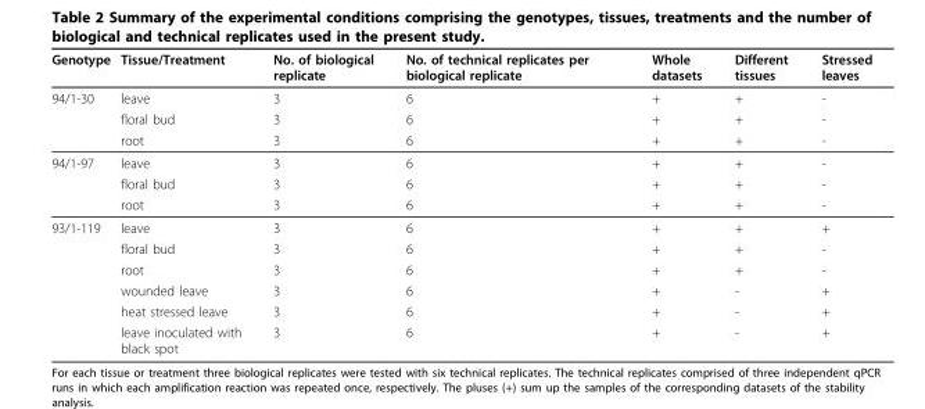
<table><thead><tr><td>Genotype</td><td>Tissue/Treatment</td><td>No. of biological replicate</td><td>No. of technical replicates per biological replicate</td><td>Whole datasets</td><td>Different tissues</td><td>Stressed leaves</td></tr></thead><tbody><tr><td rowspan="3">94/1-30</td><td>leave</td><td>3</td><td>6</td><td>+</td><td>+</td><td>-</td></tr><tr><td>floral bud</td><td>3</td><td>6</td><td>+</td><td>+</td><td>-</td></tr><tr><td>root</td><td>3</td><td>6</td><td>+</td><td>+</td><td>-</td></tr><tr><td rowspan="3">94/1-97</td><td>leave</td><td>3</td><td>6</td><td>+</td><td>+</td><td>-</td></tr><tr><td>floral bud</td><td>3</td><td>6</td><td>+</td><td>+</td><td>-</td></tr><tr><td>root</td><td>3</td><td>6</td><td>+</td><td>+</td><td>-</td></tr><tr><td rowspan="6">93/1-119</td><td>leave</td><td>3</td><td>6</td><td>+</td><td>+</td><td>+</td></tr><tr><td>floral bud</td><td>3</td><td>6</td><td>+</td><td>+</td><td>-</td></tr><tr><td>root</td><td>3</td><td>6</td><td>+</td><td>+</td><td>-</td></tr><tr><td>wounded leave</td><td>3</td><td>6</td><td>+</td><td>-</td><td>+</td></tr><tr><td>heat stressed leave</td><td>3</td><td>6</td><td>+</td><td>-</td><td>+</td></tr><tr><td>leave inoculated with black spot</td><td>3</td><td>6</td><td>+</td><td>-</td><td>+</td></tr></tbody></table>